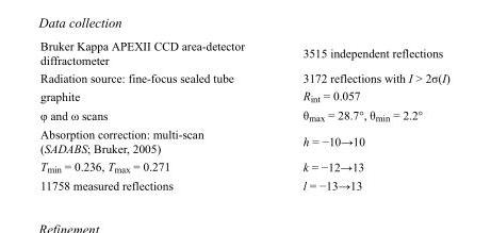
<table><tbody><tr><td>Bruker Kappa APEXII CCD area-detector diffractometer</td><td>3515 independent reflections</td></tr><tr><td>Radiation source: fine-focus sealed tube</td><td>3172 reflections with I &gt; 2σ(I)</td></tr><tr><td>graphite</td><td>R<sub>int</sub> = 0.057</td></tr><tr><td>φ and ω scans</td><td>θ<sub>max</sub> = 28.7°, θ<sub>min</sub> = 2.2°</td></tr><tr><td>Absorption correction: multi-scan (SADABS; Bruker, 2005)</td><td>h = −10→10</td></tr><tr><td>T<sub>min</sub> = 0.236, T<sub>max</sub> = 0.271</td><td>k = −12→13</td></tr><tr><td>11758 measured reflections</td><td>l = −13→13</td></tr></tbody></table>